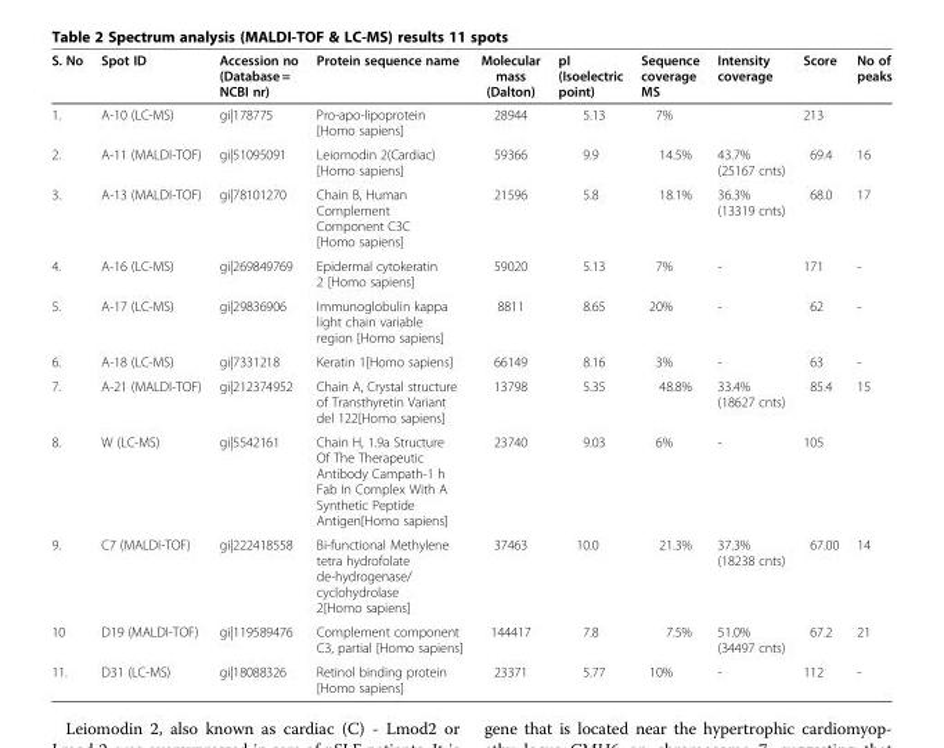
<table><thead><tr><td>S. No</td><td>Spot ID</td><td>Accession no (Database = NCBI nr)</td><td>Protein sequence name</td><td>Molecular mass (Dalton)</td><td>pI (Isoelectric point)</td><td>Sequence coverage MS</td><td>Intensity coverage</td><td>Score</td><td>No of peaks</td></tr></thead><tbody><tr><td>1.</td><td>A-10 (LC-MS)</td><td>gi|178775</td><td>Pro-apo-lipoprotein [Homo sapiens]</td><td>28944</td><td>5.13</td><td>7%</td><td></td><td>213</td><td></td></tr><tr><td>2.</td><td>A-11 (MALDI-TOF)</td><td>gi|51095091</td><td>Leiomodin 2(Cardiac) [Homo sapiens]</td><td>59366</td><td>9.9</td><td>14.5%</td><td>43.7% (25167 cnts)</td><td>69.4</td><td>16</td></tr><tr><td>3.</td><td>A-13 (MALDI-TOF)</td><td>gi|78101270</td><td>Chain B, Human Complement Component C3C [Homo sapiens]</td><td>21596</td><td>5.8</td><td>18.1%</td><td>36.3% (13319 cnts)</td><td>68.0</td><td>17</td></tr><tr><td>4.</td><td>A-16 (LC-MS)</td><td>gi|269849769</td><td>Epidermal cytokeratin 2 [Homo sapiens]</td><td>59020</td><td>5.13</td><td>7%</td><td>-</td><td>171</td><td>-</td></tr><tr><td>5.</td><td>A-17 (LC-MS)</td><td>gi|29836906</td><td>Immunoglobulin kappa light chain variable region [Homo sapiens]</td><td>8811</td><td>8.65</td><td>20%</td><td>-</td><td>62</td><td>-</td></tr><tr><td>6.</td><td>A-18 (LC-MS)</td><td>gi|7331218</td><td>Keratin 1[Homo sapiens]</td><td>66149</td><td>8.16</td><td>3%</td><td>-</td><td>63</td><td>-</td></tr><tr><td>7.</td><td>A-21 (MALDI-TOF)</td><td>gi|212374952</td><td>Chain A, Crystal structure of Transthyretin Variant del 122[Homo sapiens]</td><td>13798</td><td>5.35</td><td>48.8%</td><td>33.4% (18627 cnts)</td><td>85.4</td><td>15</td></tr><tr><td>8.</td><td>W (LC-MS)</td><td>gi|5542161</td><td>Chain H, 1.9a Structure Of The Therapeutic Antibody Campath-1 h Fab In Complex With A Synthetic Peptide Antigen[Homo sapiens]</td><td>23740</td><td>9.03</td><td>6%</td><td>-</td><td>105</td><td></td></tr><tr><td>9.</td><td>C7 (MALDI-TOF)</td><td>gi|222418558</td><td>Bi-functional Methylene tetra hydrofolate de-hydrogenase/ cyclohydrolase 2[Homo sapiens]</td><td>37463</td><td>10.0</td><td>21.3%</td><td>37.3% (18238 cnts)</td><td>67.00</td><td>14</td></tr><tr><td>10</td><td>D19 (MALDI-TOF)</td><td>gi|119589476</td><td>Complement component C3, partial [Homo sapiens]</td><td>144417</td><td>7.8</td><td>7.5%</td><td>51.0% (34497 cnts)</td><td>67.2</td><td>21</td></tr><tr><td>11.</td><td>D31 (LC-MS)</td><td>gi|18088326</td><td>Retinol binding protein [Homo sapiens]</td><td>23371</td><td>5.77</td><td>10%</td><td>-</td><td>112</td><td>-</td></tr></tbody></table>